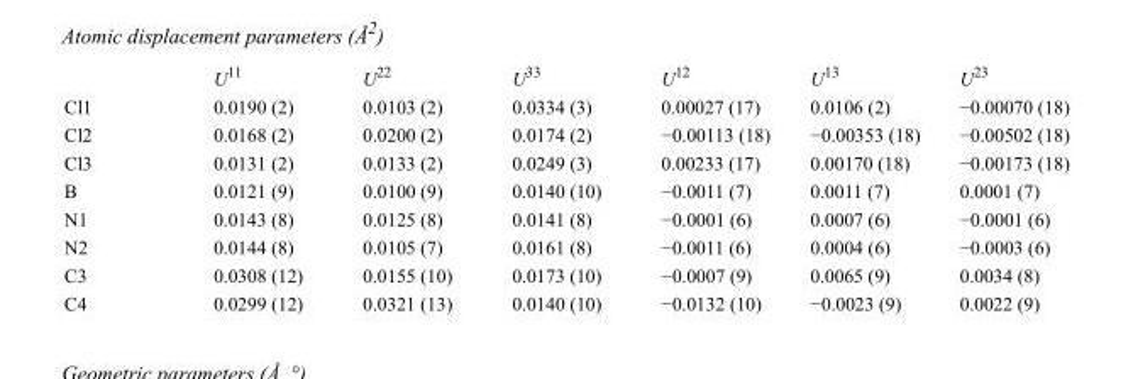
<table><thead><tr><td></td><td>U<sup>11</sup></td><td>U<sup>22</sup></td><td>U<sup>33</sup></td><td>U<sup>12</sup></td><td>U<sup>13</sup></td><td>U<sup>23</sup></td></tr></thead><tbody><tr><td>Cl1</td><td>0.0190 (2)</td><td>0.0103 (2)</td><td>0.0334 (3)</td><td>0.00027 (17)</td><td>0.0106 (2)</td><td>−0.00070 (18)</td></tr><tr><td>Cl2</td><td>0.0168 (2)</td><td>0.0200 (2)</td><td>0.0174 (2)</td><td>−0.00113 (18)</td><td>−0.00353 (18)</td><td>−0.00502 (18)</td></tr><tr><td>Cl3</td><td>0.0131 (2)</td><td>0.0133 (2)</td><td>0.0249 (3)</td><td>0.00233 (17)</td><td>0.00170 (18)</td><td>−0.00173 (18)</td></tr><tr><td>B</td><td>0.0121 (9)</td><td>0.0100 (9)</td><td>0.0140 (10)</td><td>−0.0011 (7)</td><td>0.0011 (7)</td><td>0.0001 (7)</td></tr><tr><td>N1</td><td>0.0143 (8)</td><td>0.0125 (8)</td><td>0.0141 (8)</td><td>−0.0001 (6)</td><td>0.0007 (6)</td><td>−0.0001 (6)</td></tr><tr><td>N2</td><td>0.0144 (8)</td><td>0.0105 (7)</td><td>0.0161 (8)</td><td>−0.0011 (6)</td><td>0.0004 (6)</td><td>−0.0003 (6)</td></tr><tr><td>C3</td><td>0.0308 (12)</td><td>0.0155 (10)</td><td>0.0173 (10)</td><td>−0.0007 (9)</td><td>0.0065 (9)</td><td>0.0034 (8)</td></tr><tr><td>C4</td><td>0.0299 (12)</td><td>0.0321 (13)</td><td>0.0140 (10)</td><td>−0.0132 (10)</td><td>−0.0023 (9)</td><td>0.0022 (9)</td></tr></tbody></table>